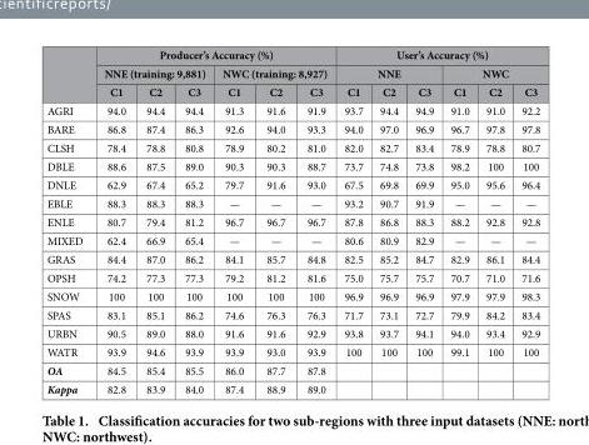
<table><thead><tr><td rowspan="3"></td><td colspan="6">Producer’s Accuracy (%)</td><td colspan="6">User’s Accuracy (%)</td></tr><tr><td colspan="3">NNE (training: 9,881)</td><td colspan="3">NWC (training: 8,927)</td><td colspan="3">NNE</td><td colspan="3">NWC</td></tr><tr><td>C1</td><td>C2</td><td>C3</td><td>C1</td><td>C2</td><td>C3</td><td>C1</td><td>C2</td><td>C3</td><td>C1</td><td>C2</td><td>C3</td></tr></thead><tbody><tr><td>AGRI</td><td>94.0</td><td>94.4</td><td>94.4</td><td>91.3</td><td>91.6</td><td>91.9</td><td>93.7</td><td>94.4</td><td>94.9</td><td>91.0</td><td>91.0</td><td>92.2</td></tr><tr><td>BARE</td><td>86.8</td><td>87.4</td><td>86.3</td><td>92.6</td><td>94.0</td><td>93.3</td><td>94.0</td><td>97.0</td><td>96.9</td><td>96.7</td><td>97.8</td><td>97.8</td></tr><tr><td>CLSH</td><td>78.4</td><td>78.8</td><td>80.8</td><td>78.9</td><td>80.2</td><td>81.0</td><td>82.0</td><td>82.7</td><td>83.4</td><td>78.9</td><td>78.8</td><td>80.7</td></tr><tr><td>DBLE</td><td>88.6</td><td>87.5</td><td>89.0</td><td>90.3</td><td>90.3</td><td>88.7</td><td>73.7</td><td>74.8</td><td>73.8</td><td>98.2</td><td>100</td><td>100</td></tr><tr><td>DNLE</td><td>62.9</td><td>67.4</td><td>65.2</td><td>79.7</td><td>91.6</td><td>93.0</td><td>67.5</td><td>69.8</td><td>69.9</td><td>95.0</td><td>95.6</td><td>96.4</td></tr><tr><td>EBLE</td><td>88.3</td><td>88.3</td><td>88.3</td><td>—</td><td>—</td><td>—</td><td>93.2</td><td>90.7</td><td>91.9</td><td>—</td><td>—</td><td>—</td></tr><tr><td>ENLE</td><td>80.7</td><td>79.4</td><td>81.2</td><td>96.7</td><td>96.7</td><td>96.7</td><td>87.8</td><td>86.8</td><td>88.3</td><td>88.2</td><td>92.8</td><td>92.8</td></tr><tr><td>MIXED</td><td>62.4</td><td>66.9</td><td>65.4</td><td>—</td><td>—</td><td>—</td><td>80.6</td><td>80.9</td><td>82.9</td><td>—</td><td>—</td><td>—</td></tr><tr><td>GRAS</td><td>84.4</td><td>87.0</td><td>86.2</td><td>84.1</td><td>85.7</td><td>84.8</td><td>82.5</td><td>85.2</td><td>84.7</td><td>82.9</td><td>86.1</td><td>84.4</td></tr><tr><td>OPSH</td><td>74.2</td><td>77.3</td><td>77.3</td><td>79.2</td><td>81.2</td><td>81.6</td><td>75.0</td><td>75.7</td><td>75.7</td><td>70.7</td><td>71.0</td><td>71.6</td></tr><tr><td>SNOW</td><td>100</td><td>100</td><td>100</td><td>100</td><td>100</td><td>100</td><td>96.9</td><td>96.9</td><td>96.9</td><td>97.9</td><td>97.9</td><td>98.3</td></tr><tr><td>SPAS</td><td>83.1</td><td>85.1</td><td>86.2</td><td>74.6</td><td>76.3</td><td>76.3</td><td>71.7</td><td>73.1</td><td>72.7</td><td>79.9</td><td>84.2</td><td>83.4</td></tr><tr><td>URBN</td><td>90.5</td><td>89.0</td><td>88.0</td><td>91.6</td><td>91.6</td><td>92.9</td><td>93.8</td><td>93.7</td><td>94.1</td><td>94.0</td><td>93.4</td><td>92.9</td></tr><tr><td>WATR</td><td>93.9</td><td>94.6</td><td>93.9</td><td>93.9</td><td>93.0</td><td>93.9</td><td>100</td><td>100</td><td>100</td><td>99.1</td><td>100</td><td>100</td></tr><tr><td>OA</td><td>84.5</td><td>85.4</td><td>85.5</td><td>86.0</td><td>87.7</td><td>87.8</td><td></td><td></td><td></td><td></td><td></td><td></td></tr><tr><td>Kappa</td><td>82.8</td><td>83.9</td><td>84.0</td><td>87.4</td><td>88.9</td><td>89.0</td><td></td><td></td><td></td><td></td><td></td><td></td></tr></tbody></table>